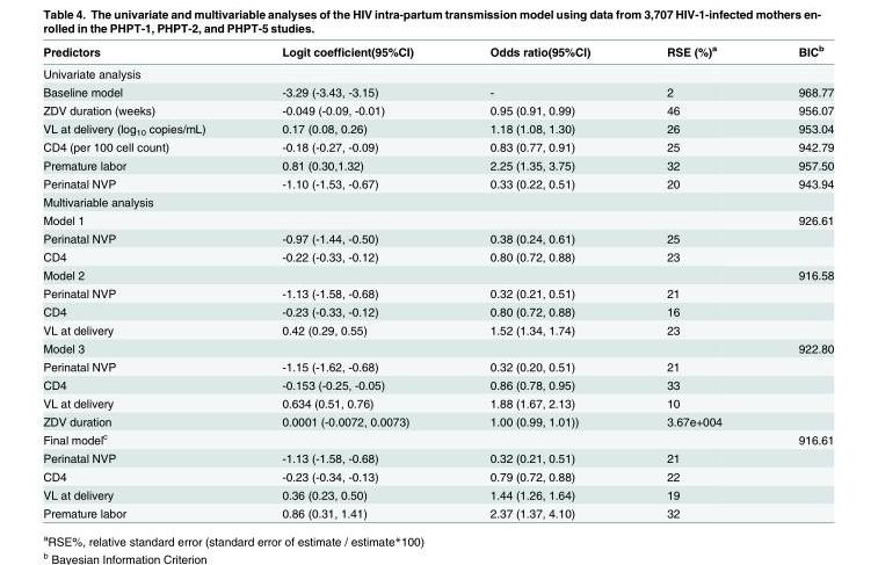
<table><thead><tr><td>Predictors</td><td>Logit coefficient(95%CI)</td><td>Odds ratio(95%CI)</td><td>RSE (%)<sup>a</sup></td><td>BIC<sup>b</sup></td></tr></thead><tbody><tr><td colspan="5">Univariate analysis</td></tr><tr><td>Baseline model</td><td>-3.29 (-3.43, -3.15)</td><td>-</td><td>2</td><td>968.77</td></tr><tr><td>ZDV duration (weeks)</td><td>-0.049 (-0.09, -0.01)</td><td>0.95 (0.91, 0.99)</td><td>46</td><td>956.07</td></tr><tr><td>VL at delivery (log<sub>10</sub> copies/mL)</td><td>0.17 (0.08, 0.26)</td><td>1.18 (1.08, 1.30)</td><td>26</td><td>953.04</td></tr><tr><td>CD4 (per 100 cell count)</td><td>-0.18 (-0.27, -0.09)</td><td>0.83 (0.77, 0.91)</td><td>25</td><td>942.79</td></tr><tr><td>Premature labor</td><td>0.81 (0.30,1.32)</td><td>2.25 (1.35, 3.75)</td><td>32</td><td>957.50</td></tr><tr><td>Perinatal NVP</td><td>-1.10 (-1.53, -0.67)</td><td>0.33 (0.22, 0.51)</td><td>20</td><td>943.94</td></tr><tr><td colspan="5">Multivariable analysis</td></tr><tr><td>Model 1</td><td></td><td></td><td></td><td>926.61</td></tr><tr><td>Perinatal NVP</td><td>-0.97 (-1.44, -0.50)</td><td>0.38 (0.24, 0.61)</td><td>25</td><td></td></tr><tr><td>CD4</td><td>-0.22 (-0.33, -0.12)</td><td>0.80 (0.72, 0.88)</td><td>23</td><td></td></tr><tr><td>Model 2</td><td></td><td></td><td></td><td>916.58</td></tr><tr><td>Perinatal NVP</td><td>-1.13 (-1.58, -0.68)</td><td>0.32 (0.21, 0.51)</td><td>21</td><td></td></tr><tr><td>CD4</td><td>-0.23 (-0.33, -0.12)</td><td>0.80 (0.72, 0.88)</td><td>16</td><td></td></tr><tr><td>VL at delivery</td><td>0.42 (0.29, 0.55)</td><td>1.52 (1.34, 1.74)</td><td>23</td><td></td></tr><tr><td>Model 3</td><td></td><td></td><td></td><td>922.80</td></tr><tr><td>Perinatal NVP</td><td>-1.15 (-1.62, -0.68)</td><td>0.32 (0.20, 0.51)</td><td>21</td><td></td></tr><tr><td>CD4</td><td>-0.153 (-0.25, -0.05)</td><td>0.86 (0.78, 0.95)</td><td>33</td><td></td></tr><tr><td>VL at delivery</td><td>0.634 (0.51, 0.76)</td><td>1.88 (1.67, 2.13)</td><td>10</td><td></td></tr><tr><td>ZDV duration</td><td>0.0001 (-0.0072, 0.0073)</td><td>1.00 (0.99, 1.01))</td><td>3.67e+004</td><td></td></tr><tr><td>Final model<sup>c</sup></td><td></td><td></td><td></td><td>916.61</td></tr><tr><td>Perinatal NVP</td><td>-1.13 (-1.58, -0.68)</td><td>0.32 (0.21, 0.51)</td><td>21</td><td></td></tr><tr><td>CD4</td><td>-0.23 (-0.34, -0.13)</td><td>0.79 (0.72, 0.88)</td><td>22</td><td></td></tr><tr><td>VL at delivery</td><td>0.36 (0.23, 0.50)</td><td>1.44 (1.26, 1.64)</td><td>19</td><td></td></tr><tr><td>Premature labor</td><td>0.86 (0.31, 1.41)</td><td>2.37 (1.37, 4.10)</td><td>32</td><td></td></tr></tbody></table>